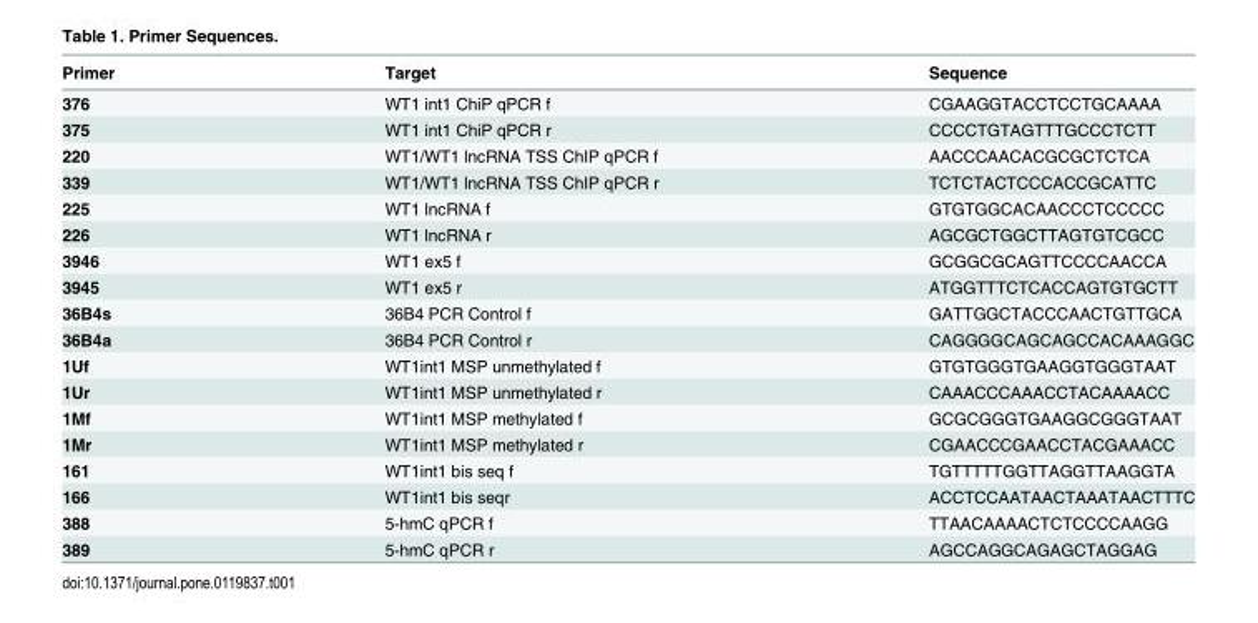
<table><thead><tr><td>Primer</td><td>Target</td><td>Sequence</td></tr></thead><tbody><tr><td>376</td><td>WT1 int1 ChiP qPCR f</td><td>CGAAGGTACCTCCTGCAAAA</td></tr><tr><td>375</td><td>WT1 int1 ChiP qPCR r</td><td>CCCCTGTAGTTTGCCCTCTT</td></tr><tr><td>220</td><td>WT1/WT1 lncRNA TSS ChIP qPCR f</td><td>AACCCAACACGCGCTCTCA</td></tr><tr><td>339</td><td>WT1/WT1 lncRNA TSS ChIP qPCR r</td><td>TCTCTACTCCCACCGCATTC</td></tr><tr><td>225</td><td>WT1 lncRNA f</td><td>GTGTGGCACAACCCTCCCCC</td></tr><tr><td>226</td><td>WT1 lncRNA r</td><td>AGCGCTGGCTTAGTGTCGCC</td></tr><tr><td>3946</td><td>WT1 ex5 f</td><td>GCGGCGCAGTTCCCCAACCA</td></tr><tr><td>3945</td><td>WT1 ex5 r</td><td>ATGGTTTCTCACCAGTGTGCTT</td></tr><tr><td>36B4s</td><td>36B4 PCR Control f</td><td>GATTGGCTACCCAACTGTTGCA</td></tr><tr><td>36B4a</td><td>36B4 PCR Control r</td><td>CAGGGGCAGCAGCCACAAAGGC</td></tr><tr><td>1Uf</td><td>WT1int1 MSP unmethylated f</td><td>GTGTGGGTGAAGGTGGGTAAT</td></tr><tr><td>1Ur</td><td>WT1int1 MSP unmethylated r</td><td>CAAACCCAAACCTACAAAACC</td></tr><tr><td>1Mf</td><td>WT1int1 MSP methylated f</td><td>GCGCGGGTGAAGGCGGGTAAT</td></tr><tr><td>1Mr</td><td>WT1int1 MSP methylated r</td><td>CGAACCCGAACCTACGAAACC</td></tr><tr><td>161</td><td>WT1int1 bis seq f</td><td>TGTTTTTGGTTAGGTTAAGGTA</td></tr><tr><td>166</td><td>WT1int1 bis seqr</td><td>ACCTCCAATAACTAAATAACTTTC</td></tr><tr><td>388</td><td>5-hmC qPCR f</td><td>TTAACAAAACTCTCCCCAAGG</td></tr><tr><td>389</td><td>5-hmC qPCR r</td><td>AGCCAGGCAGAGCTAGGAG</td></tr></tbody></table>